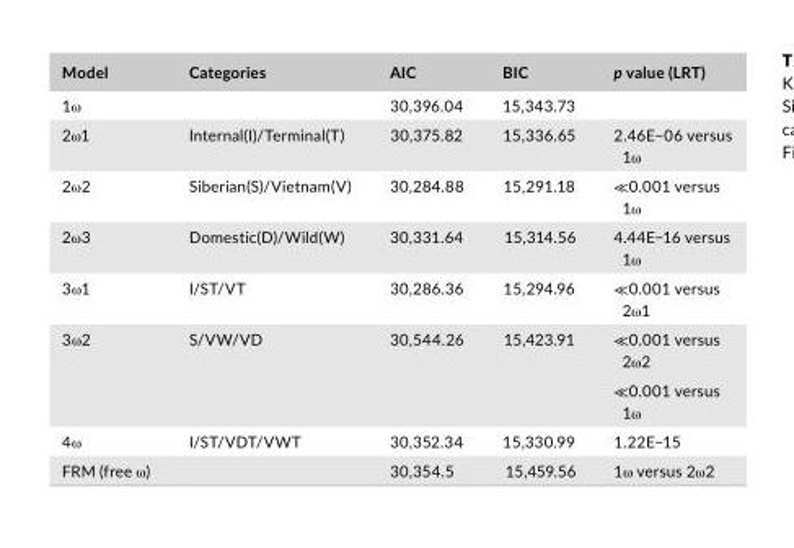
<table><thead><tr><td>Model</td><td>Categories</td><td>AIC</td><td>BIC</td><td>p value (LRT)</td></tr></thead><tbody><tr><td>1ω</td><td></td><td>30,396.04</td><td>15,343.73</td><td></td></tr><tr><td>2ω1</td><td>Internal(I)/Terminal(T)</td><td>30,375.82</td><td>15,336.65</td><td>2.46E−06 versus 1ω</td></tr><tr><td>2ω2</td><td>Siberian(S)/Vietnam(V)</td><td>30,284.88</td><td>15,291.18</td><td>≪0.001 versus 1ω</td></tr><tr><td>2ω3</td><td>Domestic(D)/Wild(W)</td><td>30,331.64</td><td>15,314.56</td><td>4.44E−16 versus 1ω</td></tr><tr><td>3ω1</td><td>I/ST/VT</td><td>30,286.36</td><td>15,294.96</td><td>≪0.001 versus 2ω1</td></tr><tr><td rowspan="2">3ω2</td><td rowspan="2">S/VW/VD</td><td rowspan="2">30,544.26</td><td rowspan="2">15,423.91</td><td>≪0.001 versus 2ω2</td></tr><tr><td>≪0.001 versus 1ω</td></tr><tr><td>4ω</td><td>I/ST/VDT/VWT</td><td>30,352.34</td><td>15,330.99</td><td>1.22E−15</td></tr><tr><td>FRM (free ω)</td><td></td><td>30,354.5</td><td>15,459.56</td><td>1ω versus 2ω2</td></tr></tbody></table>